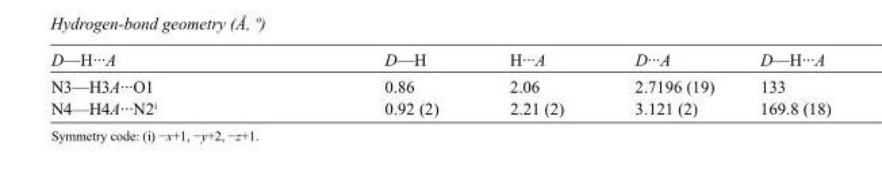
<table><tbody><tr><td>D—H···A</td><td>D—H</td><td>H···A</td><td>D···A</td><td>D—H···A</td></tr><tr><td>N3—H3A···O1</td><td>0.86</td><td>2.06</td><td>2.7196 (19)</td><td>133</td></tr><tr><td>N4—H4A···N2<sup>i</sup></td><td>0.92 (2)</td><td>2.21 (2)</td><td>3.121 (2)</td><td>169.8 (18)</td></tr></tbody></table>